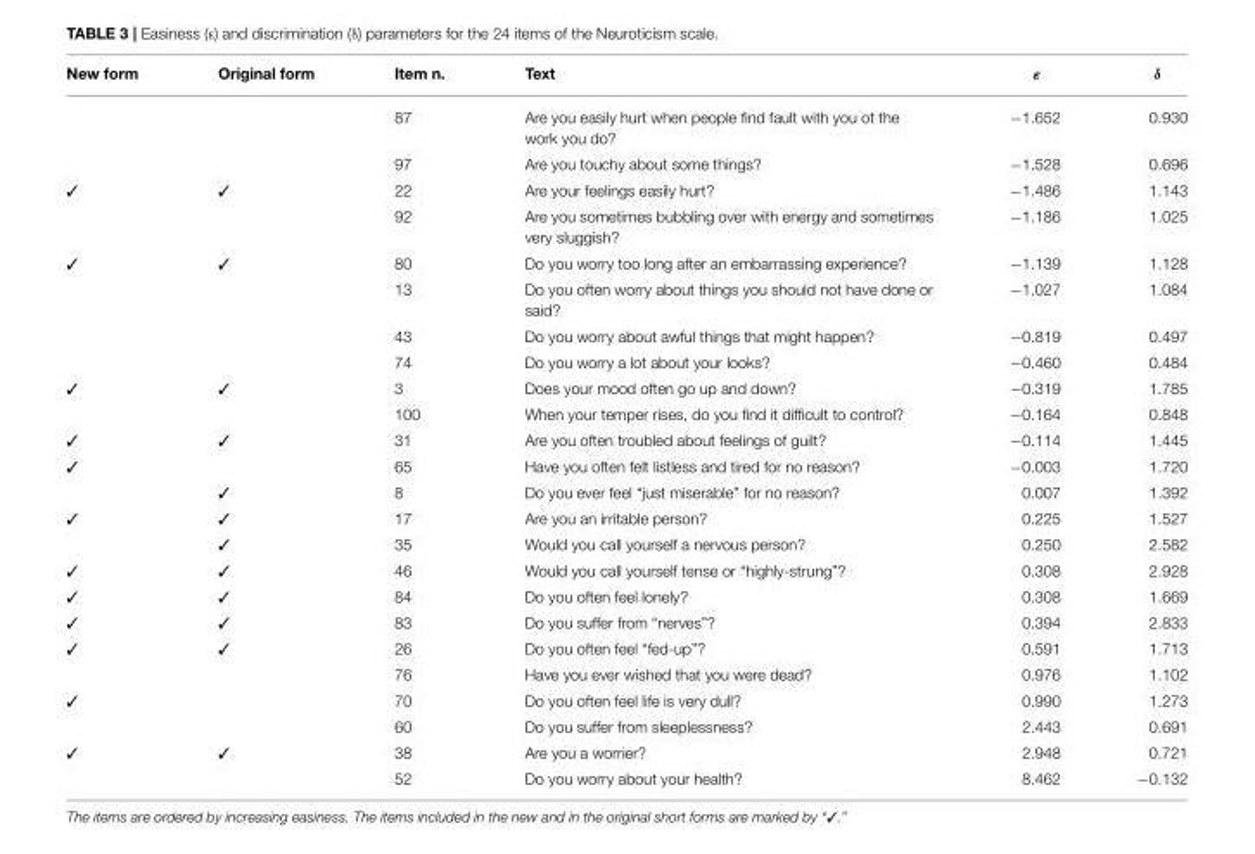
<table><thead><tr><td>New form</td><td>Original form</td><td>Item n.</td><td>Text</td><td>ε</td><td>δ</td></tr></thead><tbody><tr><td></td><td></td><td>87</td><td>Are you easily hurt when people find fault with you ot the work you do?</td><td>−1.652</td><td>0.930</td></tr><tr><td></td><td></td><td>97</td><td>Are you touchy about some things?</td><td>−1.528</td><td>0.696</td></tr><tr><td rowspan="2"></td><td></td><td>22</td><td>Are your feelings easily hurt?</td><td>−1.486</td><td>1.143</td></tr><tr><td></td><td>92</td><td>Are you sometimes bubbling over with energy and sometimes very sluggish?</td><td>−1.186</td><td>1.025</td></tr><tr><td rowspan="4"></td><td></td><td>80</td><td>Do you worry too long after an embarrassing experience?</td><td>−1.139</td><td>1.128</td></tr><tr><td></td><td>13</td><td>Do you often worry about things you should not have done or said?</td><td>−1.027</td><td>1.084</td></tr><tr><td></td><td>43</td><td>Do you worry about awful things that might happen?</td><td>−0.819</td><td>0.497</td></tr><tr><td></td><td>74</td><td>Do you worry a lot about your looks?</td><td>−0.460</td><td>0.484</td></tr><tr><td rowspan="2"></td><td></td><td>3</td><td>Does your mood often go up and down?</td><td>−0.319</td><td>1.785</td></tr><tr><td></td><td>100</td><td>When your temper rises, do you find it difficult to control?</td><td>−0.164</td><td>0.848</td></tr><tr><td></td><td></td><td>31</td><td>Are you often troubled about feelings of guilt?</td><td>−0.114</td><td>1.445</td></tr><tr><td rowspan="2"></td><td></td><td>65</td><td>Have you often felt listless and tired for no reason?</td><td>−0.003</td><td>1.720</td></tr><tr><td></td><td>8</td><td>Do you ever feel “just miserable” for no reason?</td><td>0.007</td><td>1.392</td></tr><tr><td rowspan="2"></td><td></td><td>17</td><td>Are you an irritable person?</td><td>0.225</td><td>1.527</td></tr><tr><td></td><td>35</td><td>Would you call yourself a nervous person?</td><td>0.250</td><td>2.582</td></tr><tr><td></td><td></td><td>46</td><td>Would you call yourself tense or “highly-strung”?</td><td>0.308</td><td>2.928</td></tr><tr><td></td><td></td><td>84</td><td>Do you often feel lonely?</td><td>0.308</td><td>1.669</td></tr><tr><td></td><td></td><td>83</td><td>Do you suffer from “nerves”?</td><td>0.394</td><td>2.833</td></tr><tr><td rowspan="2"></td><td></td><td>26</td><td>Do you often feel “fed-up”?</td><td>0.591</td><td>1.713</td></tr><tr><td></td><td>76</td><td>Have you ever wished that you were dead?</td><td>0.976</td><td>1.102</td></tr><tr><td rowspan="2"></td><td></td><td>70</td><td>Do you often feel life is very dull?</td><td>0.990</td><td>1.273</td></tr><tr><td></td><td>60</td><td>Do you suffer from sleeplessness?</td><td>2.443</td><td>0.691</td></tr><tr><td rowspan="2"></td><td></td><td>38</td><td>Are you a worrier?</td><td>2.948</td><td>0.721</td></tr><tr><td></td><td>52</td><td>Do you worry about your health?</td><td>8.462</td><td>−0.132</td></tr></tbody></table>